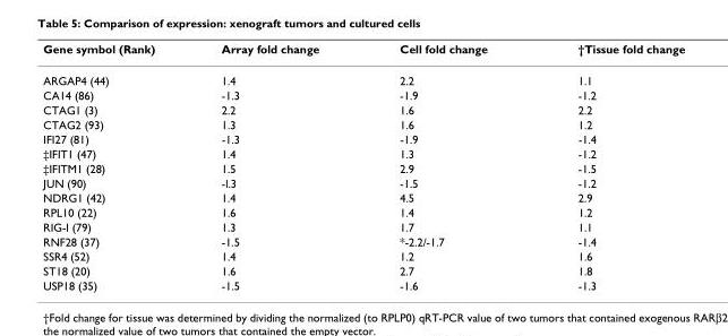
<table><thead><tr><td>Gene symbol (Rank)</td><td>Array fold change</td><td>Cell fold change</td><td>†Tissue fold change</td></tr></thead><tbody><tr><td>ARGAP4 (44)</td><td>1.4</td><td>2.2</td><td>1.1</td></tr><tr><td>CA14 (86)</td><td>-1.3</td><td>-1.9</td><td>-1.2</td></tr><tr><td>CTAG1 (3)</td><td>2.2</td><td>1.6</td><td>2.2</td></tr><tr><td>CTAG2 (93)</td><td>1.3</td><td>1.6</td><td>1.2</td></tr><tr><td>IFI27 (81)</td><td>-1.3</td><td>-1.9</td><td>-1.4</td></tr><tr><td>‡IFIT1 (47)</td><td>1.4</td><td>1.3</td><td>-1.2</td></tr><tr><td>‡IFITM1 (28)</td><td>1.5</td><td>2.9</td><td>-1.5</td></tr><tr><td>JUN (90)</td><td>-l.3</td><td>-1.5</td><td>-1.2</td></tr><tr><td>NDRG1 (42)</td><td>1.4</td><td>4.5</td><td>2.9</td></tr><tr><td>RPL10 (22)</td><td>1.6</td><td>1.4</td><td>1.2</td></tr><tr><td>RIG-I (79)</td><td>1.3</td><td>1.7</td><td>1.1</td></tr><tr><td>RNF28 (37)</td><td>-1.5</td><td>*-2.2/-1.7</td><td>-1.4</td></tr><tr><td>SSR4 (52)</td><td>1.4</td><td>1.2</td><td>1.6</td></tr><tr><td>ST18 (20)</td><td>1.6</td><td>2.7</td><td>1.8</td></tr><tr><td>USP18 (35)</td><td>-1.5</td><td>-1.6</td><td>-1.3</td></tr></tbody></table>